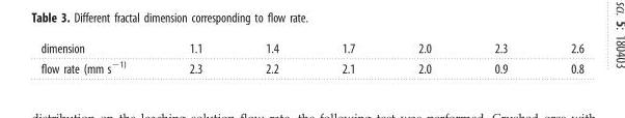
<table><tbody><tr><td>dimension</td><td>1.1</td><td>1.4</td><td>1.7</td><td>2.0</td><td>2.3</td><td>2.6</td></tr><tr><td>flow rate (mm s<sup>−1)</sup></td><td>2.3</td><td>2.2</td><td>2.1</td><td>2.0</td><td>0.9</td><td>0.8</td></tr></tbody></table>